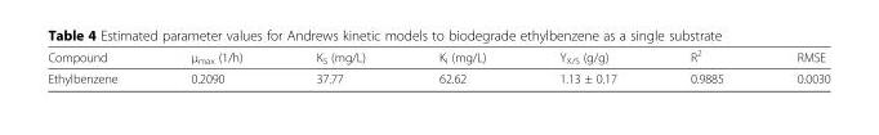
<table><thead><tr><td>Compound</td><td>μ<sub>max</sub> (1/h)</td><td>K<sub>S</sub> (mg/L)</td><td>K<sub>I</sub> (mg/L)</td><td>Y<sub>X/S</sub> (g/g)</td><td>R<sup>2</sup></td><td>RMSE</td></tr></thead><tbody><tr><td>Ethylbenzene</td><td>0.2090</td><td>37.77</td><td>62.62</td><td>1.13 ± 0.17</td><td>0.9885</td><td>0.0030</td></tr></tbody></table>